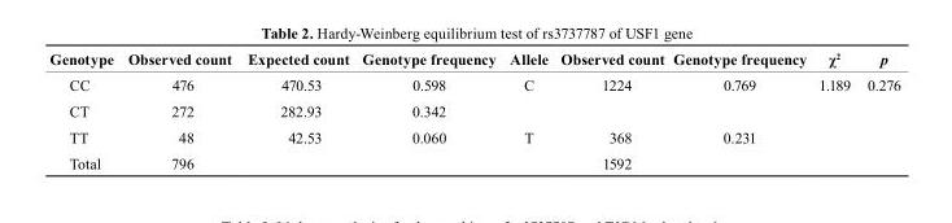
<table><thead><tr><td>Genotype</td><td>observed count</td><td>Expected count</td><td>Genotype frequency</td><td>Allele</td><td>observed count</td><td>Genotype frequency</td><td>χ<sup>2</sup></td><td>p</td></tr></thead><tbody><tr><td>CC</td><td>476</td><td>470.53</td><td>0.598</td><td rowspan="2">C</td><td rowspan="2">1224</td><td rowspan="2">0.769</td><td rowspan="4">1.189</td><td rowspan="4">0.276</td></tr><tr><td>CT</td><td>272</td><td>282.93</td><td>0.342</td></tr><tr><td>TT</td><td>48</td><td rowspan="2">42.53</td><td rowspan="2">0.060</td><td rowspan="2">T</td><td>368</td><td rowspan="2">0.231</td></tr><tr><td>Total</td><td>796</td><td>1592</td></tr></tbody></table>